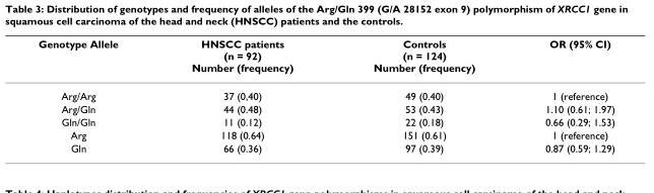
<table><thead><tr><td>Genotype Allele</td><td>HNSCC patients (n = 92) Number (frequency)</td><td>Controls (n = 124) Number (frequency)</td><td>OR (95% CI)</td></tr></thead><tbody><tr><td>Arg/Arg</td><td>37 (0,40)</td><td>49 (0.40)</td><td>1 (reference)</td></tr><tr><td>Arg/Gln</td><td>44 (0.48)</td><td>53 (0.43)</td><td>1.10 (0.61; 1.97)</td></tr><tr><td>Gln/Gln</td><td>11 (0.12)</td><td>22 (0.18)</td><td>0.66 (0.29; 1.53)</td></tr><tr><td>Arg</td><td>118 (0.64)</td><td>151 (0.61)</td><td>1 (reference)</td></tr><tr><td>Gln</td><td>66 (0.36)</td><td>97 (0.39)</td><td>0.87 (0.59; 1.29)</td></tr></tbody></table>